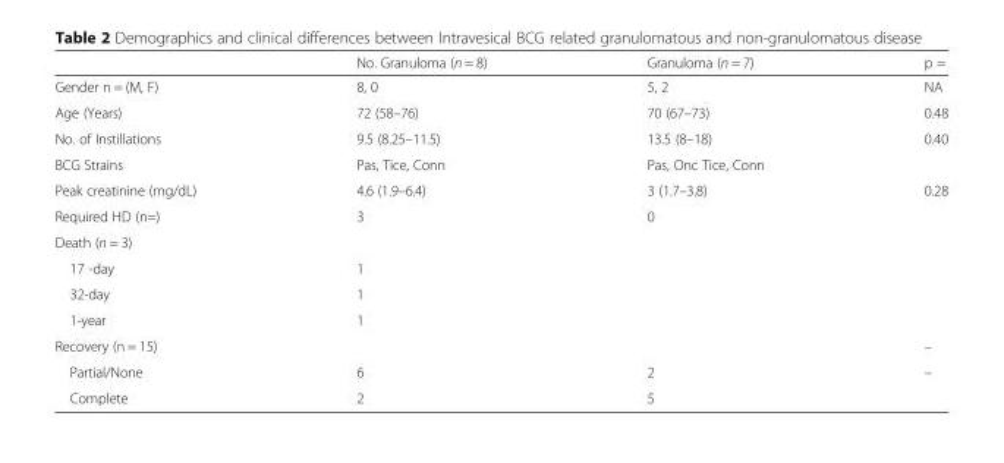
<table><thead><tr><td></td><td>No. Granuloma (n = 8)</td><td>Granuloma (n = 7)</td><td>p =</td></tr></thead><tbody><tr><td>Gender n = (M, F)</td><td>8, 0</td><td>5, 2</td><td>NA</td></tr><tr><td>Age (Years)</td><td>72 (58–76)</td><td>70 (67–73)</td><td>0.48</td></tr><tr><td>No. of Instillations</td><td>9.5 (8.25–11.5)</td><td>13.5 (8–18)</td><td>0.40</td></tr><tr><td>BCG Strains</td><td>Pas, Tice, Conn</td><td>Pas, Onc Tice, Conn</td><td></td></tr><tr><td>Peak creatinine (mg/dL)</td><td>4.6 (1.9–6.4)</td><td>3 (1.7–3.8)</td><td>0.28</td></tr><tr><td>Required HD (n=)</td><td>3</td><td>0</td><td></td></tr><tr><td colspan="4">Death (n = 3)</td></tr><tr><td>17 -day</td><td>1</td><td></td><td></td></tr><tr><td>32-day</td><td>1</td><td></td><td></td></tr><tr><td>1-year</td><td>1</td><td></td><td></td></tr><tr><td>Recovery (n = 15)</td><td></td><td></td><td>–</td></tr><tr><td>Partial/None</td><td>6</td><td>2</td><td>–</td></tr><tr><td>Complete</td><td>2</td><td>5</td><td></td></tr></tbody></table>